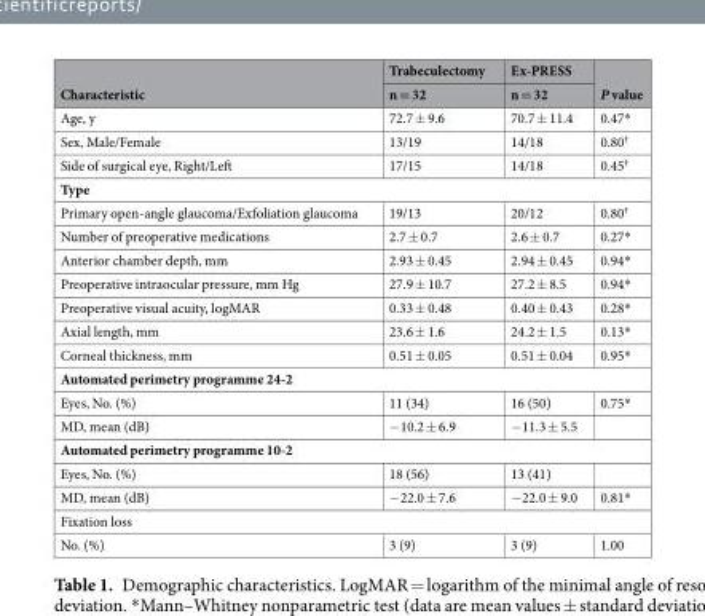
<table><thead><tr><td rowspan="2">Characteristic</td><td rowspan="2">Trabeculectomy n = 32</td><td rowspan="2">Ex-PRESS n = 32</td><td rowspan="2">P value</td></tr><tr></tr></thead><tbody><tr><td>Age, y</td><td>72.7 ± 9.6</td><td>70.7 ± 11.4</td><td>0.47*</td></tr><tr><td>Sex, Male/Female</td><td>13/19</td><td>14/18</td><td>0.80<sup>†</sup></td></tr><tr><td>Side of surgical eye, Right/Left</td><td>17/15</td><td>14/18</td><td>0.45<sup>†</sup></td></tr><tr><td colspan="4">Type</td></tr><tr><td>Primary open-angle glaucoma/Exfoliation glaucoma</td><td>19/13</td><td>20/12</td><td>0.80<sup>†</sup></td></tr><tr><td>Number of preoperative medications</td><td>2.7 ± 0.7</td><td>2.6 ± 0.7</td><td>0.27*</td></tr><tr><td>Anterior chamber depth, mm</td><td>2.93 ± 0.45</td><td>2.94 ± 0.45</td><td>0.94*</td></tr><tr><td>Preoperative intraocular pressure, mm Hg</td><td>27.9 ± 10.7</td><td>27.2 ± 8.5</td><td>0.94*</td></tr><tr><td>Preoperative visual acuity, logMAR</td><td>0.33 ± 0.48</td><td>0.40 ± 0.43</td><td>0.28*</td></tr><tr><td>Axial length, mm</td><td>23.6 ± 1.6</td><td>24.2 ± 1.5</td><td>0.13*</td></tr><tr><td>Corneal thickness, mm</td><td>0.51 ± 0.05</td><td>0.51 ± 0.04</td><td>0.95*</td></tr><tr><td colspan="4">Automated perimetry programme 24-2</td></tr><tr><td>Eyes, No. (%)</td><td>11 (34)</td><td>16 (50)</td><td>0.75*</td></tr><tr><td>MD, mean (dB)</td><td>−10.2 ± 6.9</td><td>−11.3 ± 5.5</td><td></td></tr><tr><td colspan="4">Automated perimetry programme 10-2</td></tr><tr><td>Eyes, No. (%)</td><td>18 (56)</td><td>13 (41)</td><td></td></tr><tr><td>MD, mean (dB)</td><td>−22.0 ± 7.6</td><td>−22.0 ± 9.0</td><td>0.81*</td></tr><tr><td colspan="4">Fixation loss</td></tr><tr><td>No. (%)</td><td>3 (9)</td><td>3 (9)</td><td>1.00</td></tr></tbody></table>